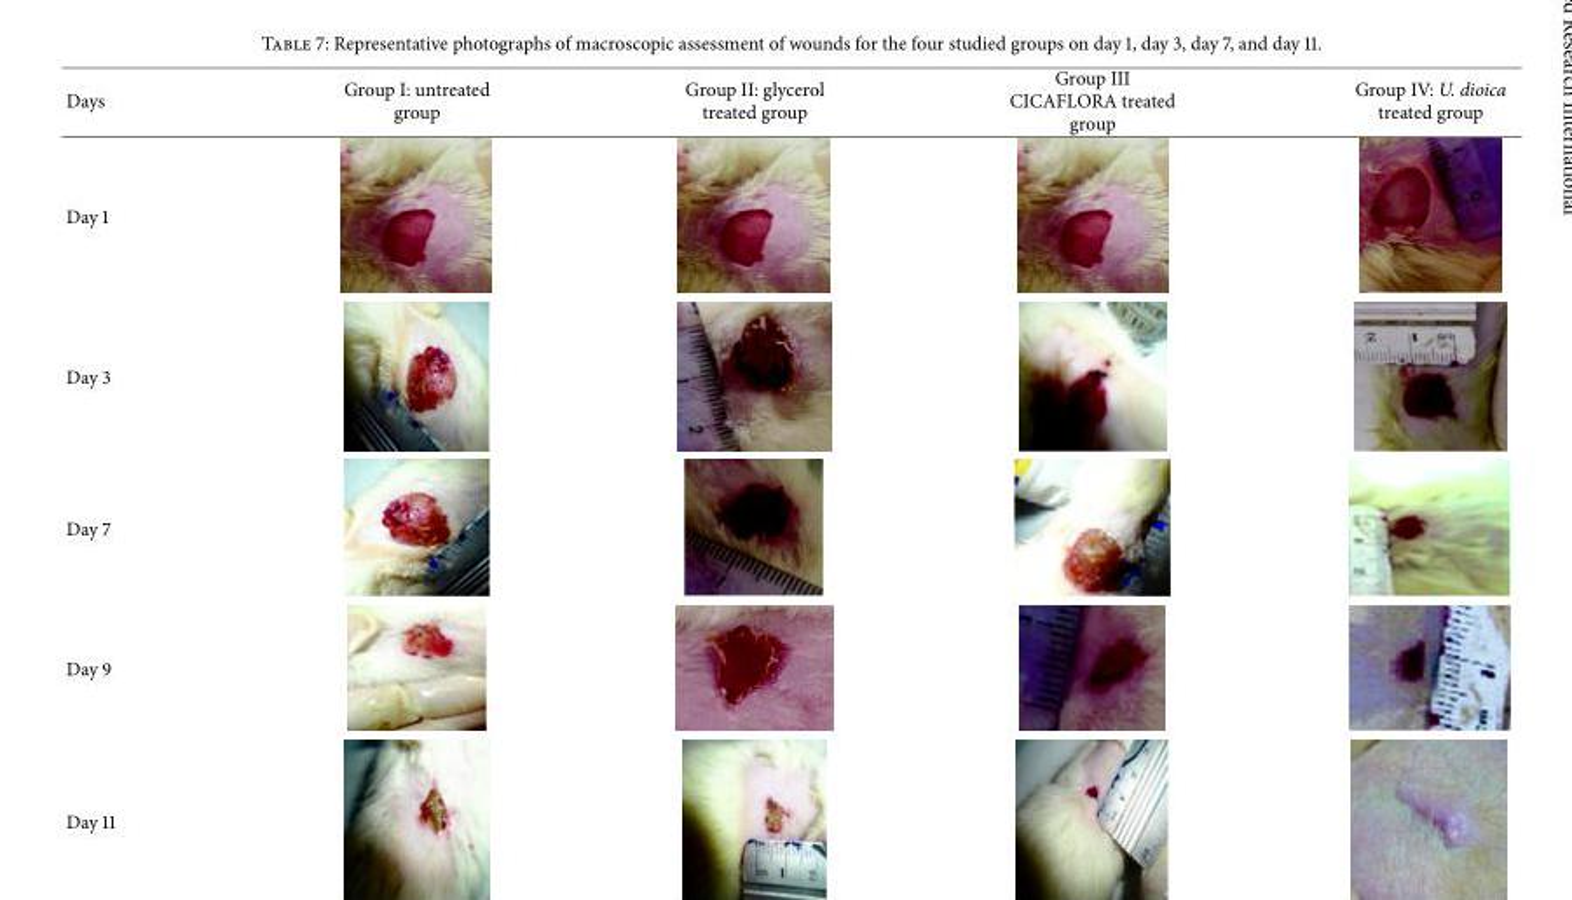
<table><thead><tr><td>Days</td><td>Group I: untreated group</td><td>Group II: glycerol treated group</td><td>Group III CICAFLORA treated group</td><td>Group IV: U. dioica treated group</td></tr></thead><tbody><tr><td colspan="5">Day 1</td></tr><tr><td colspan="5">Day 3</td></tr><tr><td colspan="5">Day 7</td></tr><tr><td colspan="5">Day 9</td></tr><tr><td>Day 11</td><td></td><td></td><td></td><td></td></tr></tbody></table>